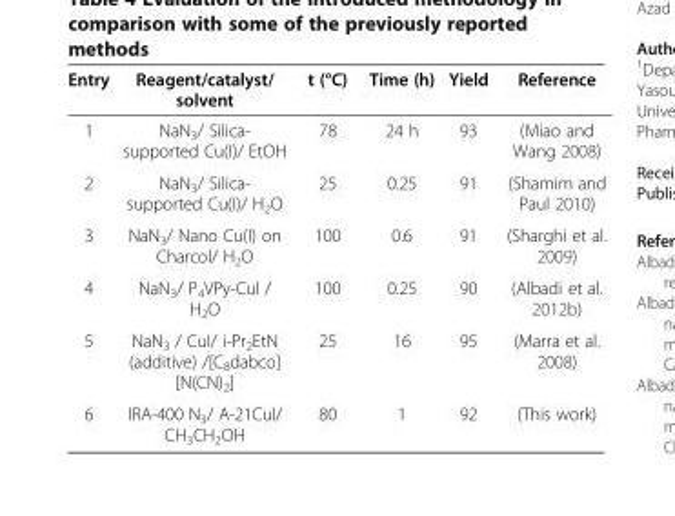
<table><thead><tr><td>Entry</td><td>Reagent/catalyst/ solvent</td><td>t (°C)</td><td>Time (h)</td><td>Yield</td><td>Reference</td></tr></thead><tbody><tr><td>1</td><td>NaN<sub>3</sub>/ Silica- supported Cu(I)/ EtOH</td><td>78</td><td>24 h</td><td>93</td><td>(Miao and Wang 2008)</td></tr><tr><td>2</td><td>NaN<sub>3</sub>/ Silica- supported Cu(I)/ H<sub>2</sub>O</td><td>25</td><td>0.25</td><td>91</td><td>(Shamim and Paul 2010)</td></tr><tr><td>3</td><td>NaN<sub>3</sub>/ Nano Cu(I) on Charcol/ H<sub>2</sub>O</td><td>100</td><td>0.6</td><td>91</td><td>(Sharghi et al. 2009)</td></tr><tr><td>4</td><td>NaN<sub>3</sub>/ P<sub>4</sub>VPy-CuI / H<sub>2</sub>O</td><td>100</td><td>0.25</td><td>90</td><td>(Albadi et al. 2012b)</td></tr><tr><td>5</td><td>NaN<sub>3</sub> / CuI/ i-Pr<sub>2</sub>EtN (additive) /[C<sub>8</sub>dabco] [N(CN)<sub>2</sub>]</td><td>25</td><td>16</td><td>95</td><td>(Marra et al. 2008)</td></tr><tr><td>6</td><td>IRA-400 N<sub>3</sub>/ A-21CuI/ CH<sub>3</sub>CH<sub>2</sub>OH</td><td>80</td><td>1</td><td>92</td><td>(This work)</td></tr></tbody></table>